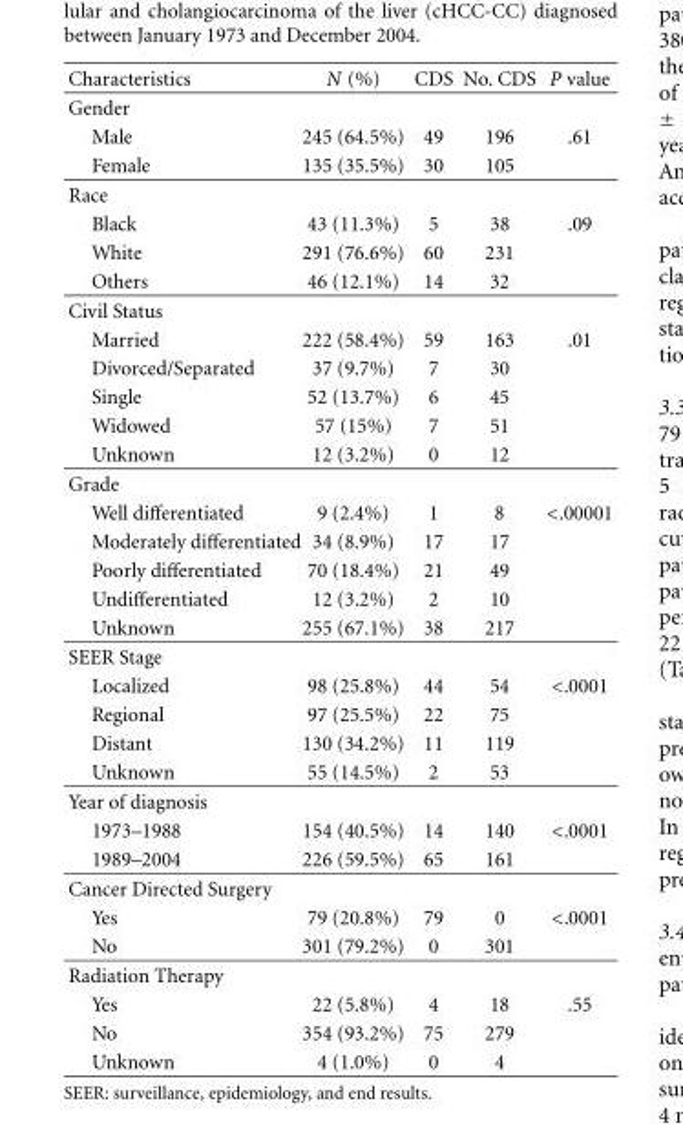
<table><thead><tr><td>Characteristics</td><td>N (%)</td><td>CDS</td><td>No. CDS</td><td>P value</td></tr></thead><tbody><tr><td colspan="5">Gender</td></tr><tr><td>Male</td><td>245 (64.5%)</td><td>49</td><td>196</td><td>.61</td></tr><tr><td>Female</td><td>135 (35.5%)</td><td>30</td><td>105</td><td></td></tr><tr><td colspan="5">Race</td></tr><tr><td>Black</td><td>43 (11.3%)</td><td>5</td><td>38</td><td>.09</td></tr><tr><td>White</td><td>291 (76.6%)</td><td>60</td><td>231</td><td></td></tr><tr><td>Others</td><td>46 (12.1%)</td><td>14</td><td>32</td><td></td></tr><tr><td colspan="5">Civil Status</td></tr><tr><td>Married</td><td>222 (58.4%)</td><td>59</td><td>163</td><td>.01</td></tr><tr><td>Divorced/Separated</td><td>37 (9.7%)</td><td>7</td><td>30</td><td></td></tr><tr><td>Single</td><td>52 (13.7%)</td><td>6</td><td>45</td><td></td></tr><tr><td>Widowed</td><td>57 (15%)</td><td>7</td><td>51</td><td></td></tr><tr><td>Unknown</td><td>12 (3.2%)</td><td>0</td><td>12</td><td></td></tr><tr><td colspan="5">Grade</td></tr><tr><td>Well differentiated</td><td>9 (2.4%)</td><td>1</td><td>8</td><td>&lt;.00001</td></tr><tr><td>Moderately differentiated</td><td>34 (8.9%)</td><td>17</td><td>17</td><td></td></tr><tr><td>Poorly differentiated</td><td>70 (18.4%)</td><td>21</td><td>49</td><td></td></tr><tr><td>Undifferentiated</td><td>12 (3.2%)</td><td>2</td><td>10</td><td></td></tr><tr><td>Unknown</td><td>255 (67.1%)</td><td>38</td><td>217</td><td></td></tr><tr><td colspan="5">SEER Stage</td></tr><tr><td>Localized</td><td>98 (25.8%)</td><td>44</td><td>54</td><td>&lt;.0001</td></tr><tr><td>Regional</td><td>97 (25.5%)</td><td>22</td><td>75</td><td></td></tr><tr><td>Distant</td><td>130 (34.2%)</td><td>11</td><td>119</td><td></td></tr><tr><td>Unknown</td><td>55 (14.5%)</td><td>2</td><td>53</td><td></td></tr><tr><td colspan="5">Year of diagnosis</td></tr><tr><td>1973–1988</td><td>154 (40.5%)</td><td>14</td><td>140</td><td>&lt;.0001</td></tr><tr><td>1989–2004</td><td>226 (59.5%)</td><td>65</td><td>161</td><td></td></tr><tr><td colspan="5">Cancer Directed Surgery</td></tr><tr><td>Yes</td><td>79 (20.8%)</td><td>79</td><td>0</td><td>&lt;.0001</td></tr><tr><td>No</td><td>301 (79.2%)</td><td>0</td><td>301</td><td></td></tr><tr><td colspan="5">Radiation Therapy</td></tr><tr><td>Yes</td><td>22 (5.8%)</td><td>4</td><td>18</td><td>.55</td></tr><tr><td>No</td><td>354 (93.2%)</td><td>75</td><td>279</td><td></td></tr><tr><td>Unknown</td><td>4 (1.0%)</td><td>0</td><td>4</td><td></td></tr></tbody></table>